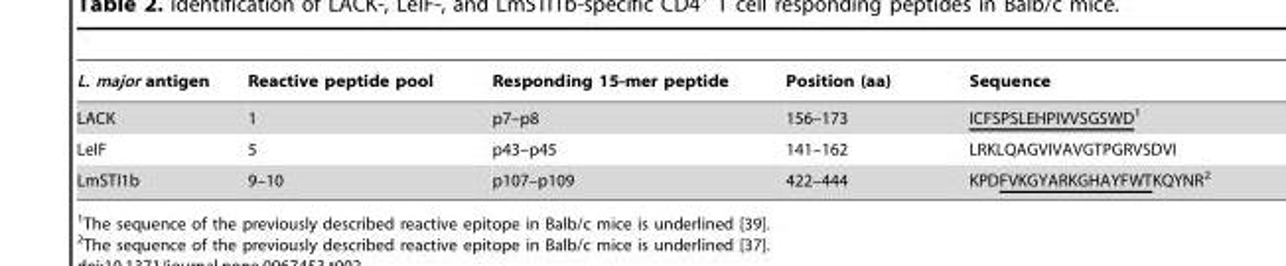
<table><thead><tr><td>L. major antigen</td><td>Reactive peptide pool</td><td>Responding 15-mer peptide</td><td>Position (aa)</td><td>Sequence</td></tr></thead><tbody><tr><td>LACK</td><td>1</td><td>p7–p8</td><td>156–173</td><td>ICFSPSLEHPIVVSGSWD1</td></tr><tr><td>LeIF</td><td>5</td><td>p43–p45</td><td>141–162</td><td>LRKLQAGVIVAVGTPGRVSDVI</td></tr><tr><td>LmSTI1b</td><td>9–10</td><td>p107–p109</td><td>422–444</td><td>KPDFVKGYARKGHAYFWTKQYNR<sup>2</sup></td></tr></tbody></table>